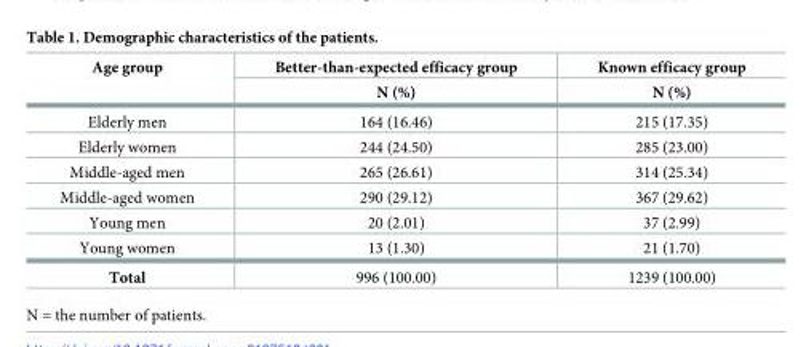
<table><thead><tr><td rowspan="2">Age group</td><td rowspan="2">Better-than-expected efficacy group N (%)</td><td rowspan="2">Known efficacy group N (%)</td></tr><tr></tr></thead><tbody><tr><td>Elderly men</td><td>164 (16.46)</td><td>215 (17.35)</td></tr><tr><td>Elderly women</td><td>244 (24.50)</td><td>285 (23.00)</td></tr><tr><td>Middle-aged men</td><td>265 (26.61)</td><td>314 (25.34)</td></tr><tr><td>Middle-aged women</td><td>290 (29.12)</td><td>367 (29.62)</td></tr><tr><td>Young men</td><td>20 (2.01)</td><td>37 (2.99)</td></tr><tr><td>Young women</td><td>13 (1.30)</td><td>21 (1.70)</td></tr><tr><td>Total</td><td>996 (100.00)</td><td>1239 (100.00)</td></tr></tbody></table>